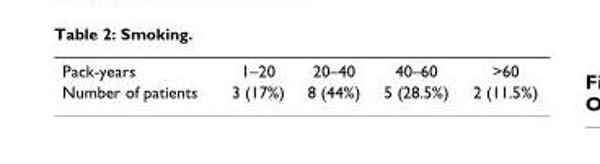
<table><tbody><tr><td>Pack-years</td><td>1–20</td><td>20–40</td><td>40–60</td><td>&gt;60</td></tr><tr><td>Number of patients</td><td>3 (17%)</td><td>8 (44%)</td><td>5 (28.5%)</td><td>2 (11.5%)</td></tr></tbody></table>